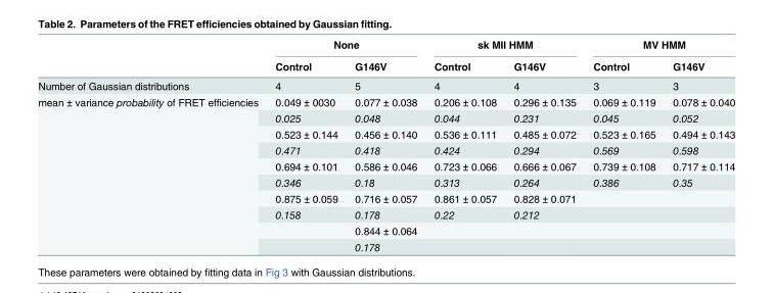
<table><thead><tr><td rowspan="2"></td><td colspan="2">None</td><td colspan="2">sk MII HMM</td><td colspan="2">MV HMM</td></tr><tr><td>Control</td><td>G146V</td><td>Control</td><td>G146V</td><td>Control</td><td>G146V</td></tr></thead><tbody><tr><td>Number of Gaussian distributions</td><td>4</td><td>5</td><td>4</td><td>4</td><td>3</td><td>3</td></tr><tr><td rowspan="10">mean ± variance probability of FRET efficiencies</td><td>0.049 ± 0030</td><td>0.077 ± 0.038</td><td>0.206 ± 0.108</td><td>0.296 ± 0.135</td><td>0.069 ± 0.119</td><td>0.078 ± 0.040</td></tr><tr><td>0.025</td><td>0.048</td><td>0.044</td><td>0.231</td><td>0.045</td><td>0.052</td></tr><tr><td>0.523 ± 0.144</td><td>0.456 ± 0.140</td><td>0.536 ± 0.111</td><td>0.485 ± 0.072</td><td>0.523 ± 0.165</td><td>0.494 ± 0.143</td></tr><tr><td>0.471</td><td>0.418</td><td>0.424</td><td>0.294</td><td>0.569</td><td>0.598</td></tr><tr><td>0.694 ± 0.101</td><td>0.586 ± 0.046</td><td>0.723 ± 0.066</td><td>0.666 ± 0.067</td><td>0.739 ± 0.108</td><td>0.717 ± 0.114</td></tr><tr><td>0.346</td><td>0.18</td><td>0.313</td><td>0.264</td><td>0.386</td><td>0.35</td></tr><tr><td>0.875 ± 0.059</td><td>0.716 ± 0.057</td><td>0.861 ± 0.057</td><td>0.828 ± 0.071</td><td></td><td></td></tr><tr><td>0.158</td><td>0.178</td><td>0.22</td><td>0.212</td><td></td><td></td></tr><tr><td></td><td>0.844 ± 0.064</td><td></td><td></td><td></td><td></td></tr><tr><td></td><td>0.178</td><td></td><td></td><td></td><td></td></tr></tbody></table>